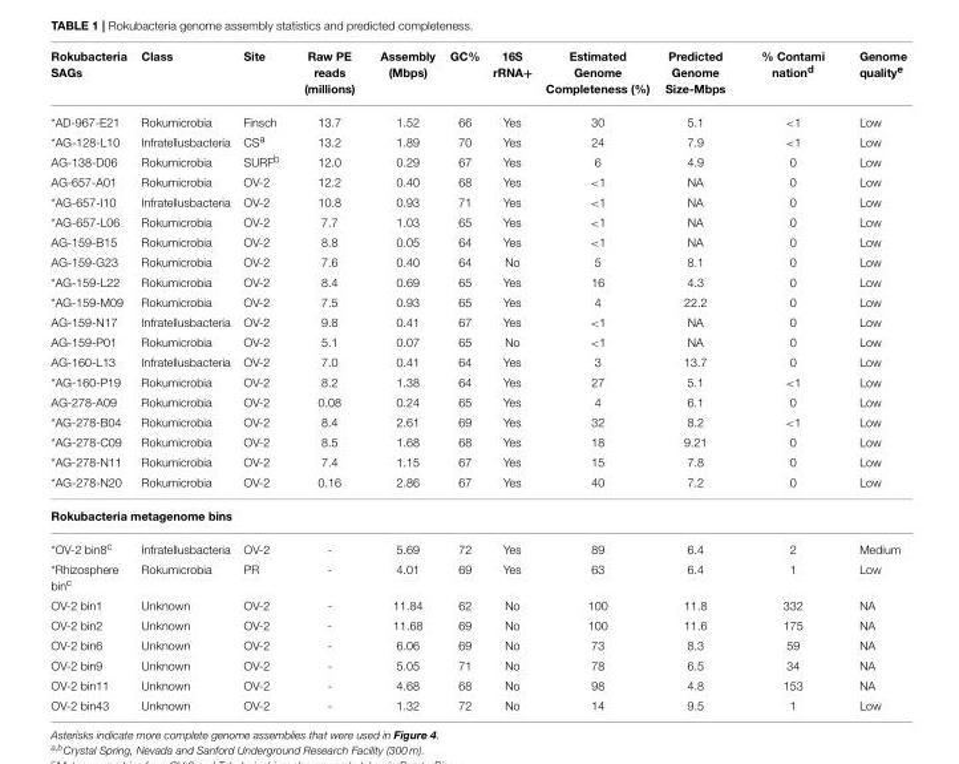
<table><thead><tr><td>Rokubacteria SAGs</td><td>Class</td><td>Site</td><td>Raw PE reads (millions)</td><td>Assembly (Mbps)</td><td>GC%</td><td>16S rRNA+</td><td>Estimated Genome Completeness (%)</td><td>Predicted Genome Size-Mbps</td><td>% Contami nation<sup>d</sup></td><td>Genome quality<sup>e</sup></td></tr></thead><tbody><tr><td>*AD-967-E21</td><td>Rokumicrobia</td><td>Finsch</td><td>13.7</td><td>1.52</td><td>66</td><td>Yes</td><td>30</td><td>5.1</td><td>&lt;1</td><td>Low</td></tr><tr><td>*AG-128-L10</td><td>Infratellusbacteria</td><td>CS<sup>a</sup></td><td>13.2</td><td>1.89</td><td>70</td><td>Yes</td><td>24</td><td>7.9</td><td>&lt;1</td><td>Low</td></tr><tr><td>AG-138-D06</td><td>Rokumicrobia</td><td>SURF<sup>b</sup></td><td>12.0</td><td>0.29</td><td>67</td><td>Yes</td><td>6</td><td>4.9</td><td>0</td><td>Low</td></tr><tr><td>AG-657-A01</td><td>Rokumicrobia</td><td>OV-2</td><td>12.2</td><td>0.40</td><td>68</td><td>Yes</td><td>&lt;1</td><td>NA</td><td>0</td><td>Low</td></tr><tr><td>*AG-657-I10</td><td>Infratellusbacteria</td><td>OV-2</td><td>10.8</td><td>0.93</td><td>71</td><td>Yes</td><td>&lt;1</td><td>NA</td><td>0</td><td>Low</td></tr><tr><td>*AG-657-L06</td><td>Rokumicrobia</td><td>OV-2</td><td>7.7</td><td>1.03</td><td>65</td><td>Yes</td><td>&lt;1</td><td>NA</td><td>0</td><td>Low</td></tr><tr><td>AG-159-B15</td><td>Rokumicrobia</td><td>OV-2</td><td>8.8</td><td>0.05</td><td>64</td><td>Yes</td><td>&lt;1</td><td>NA</td><td>0</td><td>Low</td></tr><tr><td>AG-159-G23</td><td>Rokumicrobia</td><td>OV-2</td><td>7.6</td><td>0.40</td><td>64</td><td>No</td><td>5</td><td>8.1</td><td>0</td><td>Low</td></tr><tr><td>*AG-159-L22</td><td>Rokumicrobia</td><td>OV-2</td><td>8.4</td><td>0.69</td><td>65</td><td>Yes</td><td>16</td><td>4.3</td><td>0</td><td>Low</td></tr><tr><td>*AG-159-M09</td><td>Rokumicrobia</td><td>OV-2</td><td>7.5</td><td>0.93</td><td>65</td><td>Yes</td><td>4</td><td>22.2</td><td>0</td><td>Low</td></tr><tr><td>AG-159-N17</td><td>Infratellusbacteria</td><td>OV-2</td><td>9.8</td><td>0.41</td><td>67</td><td>Yes</td><td>&lt;1</td><td>NA</td><td>0</td><td>Low</td></tr><tr><td>AG-159-P01</td><td>Rokumicrobia</td><td>OV-2</td><td>5.1</td><td>0.07</td><td>65</td><td>No</td><td>&lt;1</td><td>NA</td><td>0</td><td>Low</td></tr><tr><td>AG-160-L13</td><td>Infratellusbacteria</td><td>OV-2</td><td>7.0</td><td>0.41</td><td>64</td><td>Yes</td><td>3</td><td>13.7</td><td>0</td><td>Low</td></tr><tr><td>*AG-160-P19</td><td>Rokumicrobia</td><td>OV-2</td><td>8.2</td><td>1.38</td><td>64</td><td>Yes</td><td>27</td><td>5.1</td><td>&lt;1</td><td>Low</td></tr><tr><td>AG-278-A09</td><td>Rokumicrobia</td><td>OV-2</td><td>0.08</td><td>0.24</td><td>65</td><td>Yes</td><td>4</td><td>6.1</td><td>0</td><td>Low</td></tr><tr><td>*AG-278-B04</td><td>Rokumicrobia</td><td>OV-2</td><td>8.4</td><td>2.61</td><td>69</td><td>Yes</td><td>32</td><td>8.2</td><td>&lt;1</td><td>Low</td></tr><tr><td>*AG-278-C09</td><td>Rokumicrobia</td><td>OV-2</td><td>8.5</td><td>1.68</td><td>68</td><td>Yes</td><td>18</td><td>9.21</td><td>0</td><td>Low</td></tr><tr><td>*AG-278-N11</td><td>Rokumicrobia</td><td>OV-2</td><td>7.4</td><td>1.15</td><td>67</td><td>Yes</td><td>15</td><td>7.8</td><td>0</td><td>Low</td></tr><tr><td>*AG-278-N20</td><td>Rokumicrobia</td><td>OV-2</td><td>0.16</td><td>2.86</td><td>67</td><td>Yes</td><td>40</td><td>7.2</td><td>0</td><td>Low</td></tr><tr><td colspan="11">Rokubacteria metagenome bins</td></tr><tr><td>*OV-2 bin8<sup>c</sup></td><td>Infratellusbacteria</td><td>OV-2</td><td>-</td><td>5.69</td><td>72</td><td>Yes</td><td>89</td><td>6.4</td><td>2</td><td>Medium</td></tr><tr><td>*Rhizosphere bin<sup>c</sup></td><td>Rokumicrobia</td><td>PR</td><td>-</td><td>4.01</td><td>69</td><td>Yes</td><td>63</td><td>6.4</td><td>1</td><td>Low</td></tr><tr><td>OV-2 bin1</td><td>Unknown</td><td>OV-2</td><td>-</td><td>11.84</td><td>62</td><td>No</td><td>100</td><td>11.8</td><td>332</td><td>NA</td></tr><tr><td>OV-2 bin2</td><td>Unknown</td><td>OV-2</td><td>-</td><td>11.68</td><td>69</td><td>No</td><td>100</td><td>11.6</td><td>175</td><td>NA</td></tr><tr><td>OV-2 bin6</td><td>Unknown</td><td>OV-2</td><td>-</td><td>6.06</td><td>69</td><td>No</td><td>73</td><td>8.3</td><td>59</td><td>NA</td></tr><tr><td>OV-2 bin9</td><td>Unknown</td><td>OV-2</td><td>-</td><td>5.05</td><td>71</td><td>No</td><td>78</td><td>6.5</td><td>34</td><td>NA</td></tr><tr><td>OV-2 bin11</td><td>Unknown</td><td>OV-2</td><td>-</td><td>4.68</td><td>68</td><td>No</td><td>98</td><td>4.8</td><td>153</td><td>NA</td></tr><tr><td>OV-2 bin43</td><td>Unknown</td><td>OV-2</td><td>-</td><td>1.32</td><td>72</td><td>No</td><td>14</td><td>9.5</td><td>1</td><td>Low</td></tr></tbody></table>